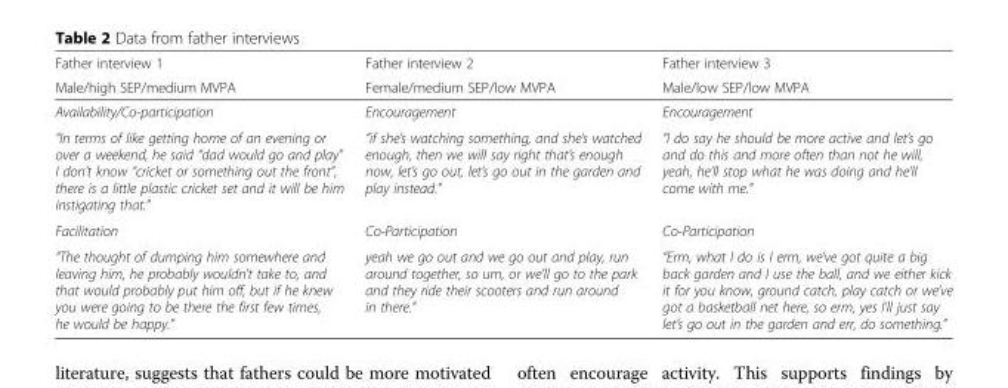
<table><thead><tr><td rowspan="2">Father interview 1 Male/high SEP/medium MVPA</td><td rowspan="2">Father interview 2 Female/medium SEP/low MVPA</td><td rowspan="2">Father interview 3 Male/low SEP/low MVPA</td></tr><tr></tr></thead><tbody><tr><td>Availability/Co-participation</td><td>Encouragement</td><td>Encouragement</td></tr><tr><td>“In terms of like getting home of an evening or over a weekend, he said “dad would go and play” I don’t know “cricket or something out the front”, there is a little plastic cricket set and it will be him instigating that.”</td><td>“if she’s watching something, and she’s watched enough, then we will say right that’s enough now, let’s go out, let’s go out in the garden and play instead.”</td><td>“I do say he should be more active and let’s go and do this and more often than not he will, yeah, he’ll stop what he was doing and he’ll come with me.”</td></tr><tr><td>Facilitation</td><td>Co-Participation</td><td>Co-Participation</td></tr><tr><td>“The thought of dumping him somewhere and leaving him, he probably wouldn’t take to, and that would probably put him off, but if he knew you were going to be there the first few times, he would be happy.”</td><td>yeah we go out and we go out and play, run around together, so um, or we’ll go to the park and they ride their scooters and run around in there.”</td><td>“Erm, what I do is I erm, we’ve got quite a big back garden and I use the ball, and we either kick it for you know, ground catch, play catch or we’ve got a basketball net here, so erm, yes I’ll just say let’s go out in the garden and err, do something.”</td></tr></tbody></table>